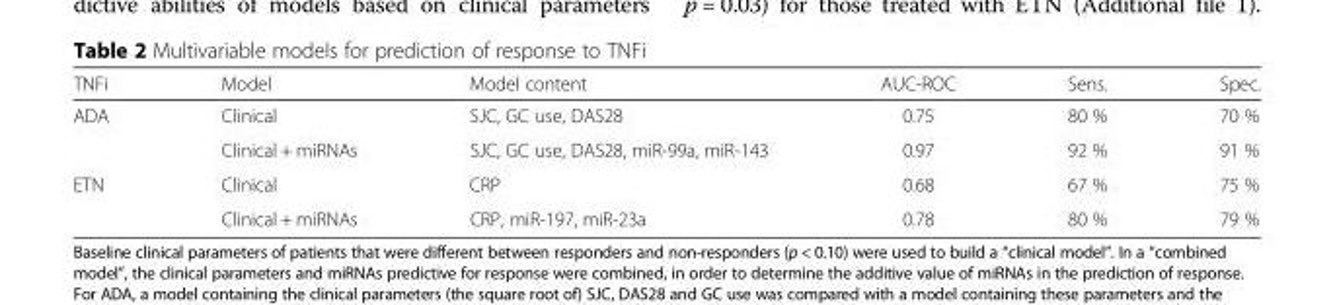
<table><thead><tr><td>TNFi</td><td>Model</td><td>Model content</td><td>AUC-ROC</td><td>Sens.</td><td>Spec.</td></tr></thead><tbody><tr><td rowspan="2">ADA</td><td>Clinical</td><td>SJC, GC use, DAS28</td><td>0.75</td><td>80 %</td><td>70 %</td></tr><tr><td>Clinical + miRNAs</td><td>SJC, GC use, DAS28, miR-99a, miR-143</td><td>0.97</td><td>92 %</td><td>91 %</td></tr><tr><td rowspan="2">ETN</td><td>Clinical</td><td>CRP</td><td>0.68</td><td>67 %</td><td>75 %</td></tr><tr><td>Clinical + miRNAs</td><td>CRP, miR-197, miR-23a</td><td>0.78</td><td>80 %</td><td>79 %</td></tr></tbody></table>